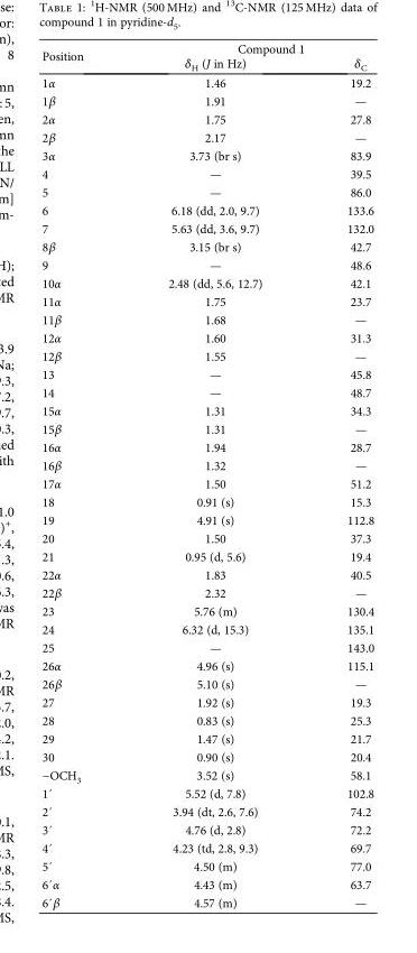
<table><thead><tr><td rowspan="2">Position</td><td colspan="2">Compound 1</td></tr><tr><td>δ<sub>H</sub> (J in Hz)</td><td>δ<sub>C</sub></td></tr></thead><tbody><tr><td>1α</td><td>1.46</td><td>19.2</td></tr><tr><td>1β</td><td>1.91</td><td>—</td></tr><tr><td>2α</td><td>1.75</td><td>27.8</td></tr><tr><td>2β</td><td>2.17</td><td>—</td></tr><tr><td>3α</td><td>3.73 (br s)</td><td>83.9</td></tr><tr><td>4</td><td>—</td><td>39.5</td></tr><tr><td>5</td><td>—</td><td>86.0</td></tr><tr><td>6</td><td>6.18 (dd, 2.0, 9.7)</td><td>133.6</td></tr><tr><td>7</td><td>5.63 (dd, 3.6, 9.7)</td><td>132.0</td></tr><tr><td>8β</td><td>3.15 (br s)</td><td>42.7</td></tr><tr><td>9</td><td>—</td><td>48.6</td></tr><tr><td>10α</td><td>2.48 (dd, 5.6, 12.7)</td><td>42.1</td></tr><tr><td>11α</td><td>1.75</td><td>23.7</td></tr><tr><td>11β</td><td>1.68</td><td>—</td></tr><tr><td>12α</td><td>1.60</td><td>31.3</td></tr><tr><td>12β</td><td>1.55</td><td>—</td></tr><tr><td>13</td><td>—</td><td>45.8</td></tr><tr><td>14</td><td>—</td><td>48.7</td></tr><tr><td>15α</td><td>1.31</td><td>34.3</td></tr><tr><td>15β</td><td>1.31</td><td>—</td></tr><tr><td>16α</td><td>1.94</td><td>28.7</td></tr><tr><td>16β</td><td>1.32</td><td>—</td></tr><tr><td>17α</td><td>1.50</td><td>51.2</td></tr><tr><td>18</td><td>0.91 (s)</td><td>15.3</td></tr><tr><td>19</td><td>4.91 (s)</td><td>112.8</td></tr><tr><td>20</td><td>1.50</td><td>37.3</td></tr><tr><td>21</td><td>0.95 (d, 5.6)</td><td>19.4</td></tr><tr><td>22α</td><td>1.83</td><td>40.5</td></tr><tr><td>22β</td><td>2.32</td><td>—</td></tr><tr><td>23</td><td>5.76 (m)</td><td>130.4</td></tr><tr><td>24</td><td>6.32 (d, 15.3)</td><td>135.1</td></tr><tr><td>25</td><td>—</td><td>143.0</td></tr><tr><td>26α</td><td>4.96 (s)</td><td>115.1</td></tr><tr><td>26β</td><td>5.10 (s)</td><td>—</td></tr><tr><td>27</td><td>1.92 (s)</td><td>19.3</td></tr><tr><td>28</td><td>0.83 (s)</td><td>25.3</td></tr><tr><td>29</td><td>1.47 (s)</td><td>21.7</td></tr><tr><td>30</td><td>0.90 (s)</td><td>20.4</td></tr><tr><td>−OCH<sub>3</sub></td><td>3.52 (s)</td><td>58.1</td></tr><tr><td>1´</td><td>5.52 (d, 7.8)</td><td>102.8</td></tr><tr><td>2´</td><td>3.94 (dt, 2.6, 7.6)</td><td>74.2</td></tr><tr><td>3´</td><td>4.76 (d, 2.8)</td><td>72.2</td></tr><tr><td>4´</td><td>4.23 (td, 2.8, 9.3)</td><td>69.7</td></tr><tr><td>5´</td><td>4.50 (m)</td><td>77.0</td></tr><tr><td>6´α</td><td>4.43 (m)</td><td>63.7</td></tr><tr><td>6´β</td><td>4.57 (m)</td><td>—</td></tr></tbody></table>